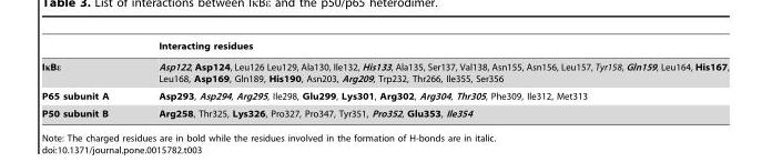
<table><thead><tr><td></td><td>Interacting residues</td></tr></thead><tbody><tr><td>IκBε</td><td>Asp122, Asp124, Leu126 Leu129, Ala130, Ile132, His133, Ala135, Ser137, Val138, Asn155, Asn156, Leu157, Tyr158, Gln159, Leu164, His167, Leu168, Asp169, Gln189, His190, Asn203, Arg209, Trp232, Thr266, Ile355, Ser356</td></tr><tr><td>P65 subunit A</td><td>Asp293, Asp294, Arg295, Ile298, Glu299, Lys301, Arg302, Arg304, Thr305, Phe309, Ile312, Met313</td></tr><tr><td>P50 subunit B</td><td>Arg258, Thr325, Lys326, Pro327, Pro347, Tyr351, Pro352, Glu353, Ile354</td></tr></tbody></table>